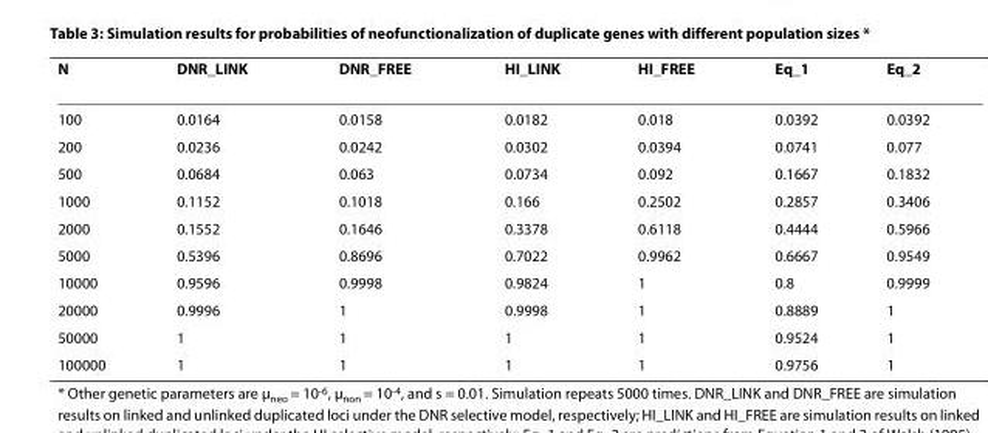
<table><thead><tr><td>N</td><td>DNR_LINK</td><td>DNR_FREE</td><td>HI_LINK</td><td>HI_FREE</td><td>Eq_1</td><td>Eq_2</td></tr></thead><tbody><tr><td>100</td><td>0.0164</td><td>0.0158</td><td>0.0182</td><td>0.018</td><td>0.0392</td><td>0.0392</td></tr><tr><td>200</td><td>0.0236</td><td>0.0242</td><td>0.0302</td><td>0.0394</td><td>0.0741</td><td>0.077</td></tr><tr><td>500</td><td>0.0684</td><td>0.063</td><td>0.0734</td><td>0.092</td><td>0.1667</td><td>0.1832</td></tr><tr><td>1000</td><td>0.1152</td><td>0.1018</td><td>0.166</td><td>0.2502</td><td>0.2857</td><td>0.3406</td></tr><tr><td>2000</td><td>0.1552</td><td>0.1646</td><td>0.3378</td><td>0.6118</td><td>0.4444</td><td>0.5966</td></tr><tr><td>5000</td><td>0.5396</td><td>0.8696</td><td>0.7022</td><td>0.9962</td><td>0.6667</td><td>0.9549</td></tr><tr><td>10000</td><td>0.9596</td><td>0.9998</td><td>0.9824</td><td>1</td><td>0.8</td><td>0.9999</td></tr><tr><td>20000</td><td>0.9996</td><td>1</td><td>0.9998</td><td>1</td><td>0.8889</td><td>1</td></tr><tr><td>50000</td><td>1</td><td>1</td><td>1</td><td>1</td><td>0.9524</td><td>1</td></tr><tr><td>100000</td><td>1</td><td>1</td><td>1</td><td>1</td><td>0.9756</td><td>1</td></tr></tbody></table>